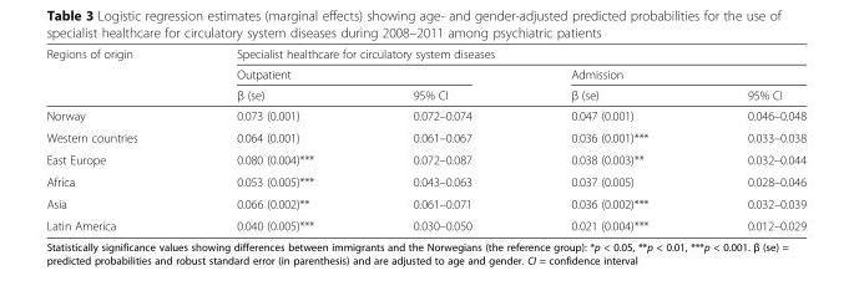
<table><thead><tr><td rowspan="3">Regions of origin</td><td colspan="4">Specialist healthcare for circulatory system diseases</td></tr><tr><td colspan="2">Outpatient</td><td colspan="2">Admission</td></tr><tr><td>β (se)</td><td>95% CI</td><td>β (se)</td><td>95% CI</td></tr></thead><tbody><tr><td>Norway</td><td>0.073 (0.001)</td><td>0.072–0.074</td><td>0.047 (0.001)</td><td>0.046–0.048</td></tr><tr><td>Western countries</td><td>0.064 (0.001)</td><td>0.061–0.067</td><td>0.036 (0.001)***</td><td>0.033–0.038</td></tr><tr><td>East Europe</td><td>0.080 (0.004)***</td><td>0.072–0.087</td><td>0.038 (0.003)**</td><td>0.032–0.044</td></tr><tr><td>Africa</td><td>0.053 (0.005)***</td><td>0.043–0.063</td><td>0.037 (0.005)</td><td>0.028–0.046</td></tr><tr><td>Asia</td><td>0.066 (0.002)**</td><td>0.061–0.071</td><td>0.036 (0.002)***</td><td>0.032–0.039</td></tr><tr><td>Latin America</td><td>0.040 (0.005)***</td><td>0.030–0.050</td><td>0.021 (0.004)***</td><td>0.012–0.029</td></tr></tbody></table>